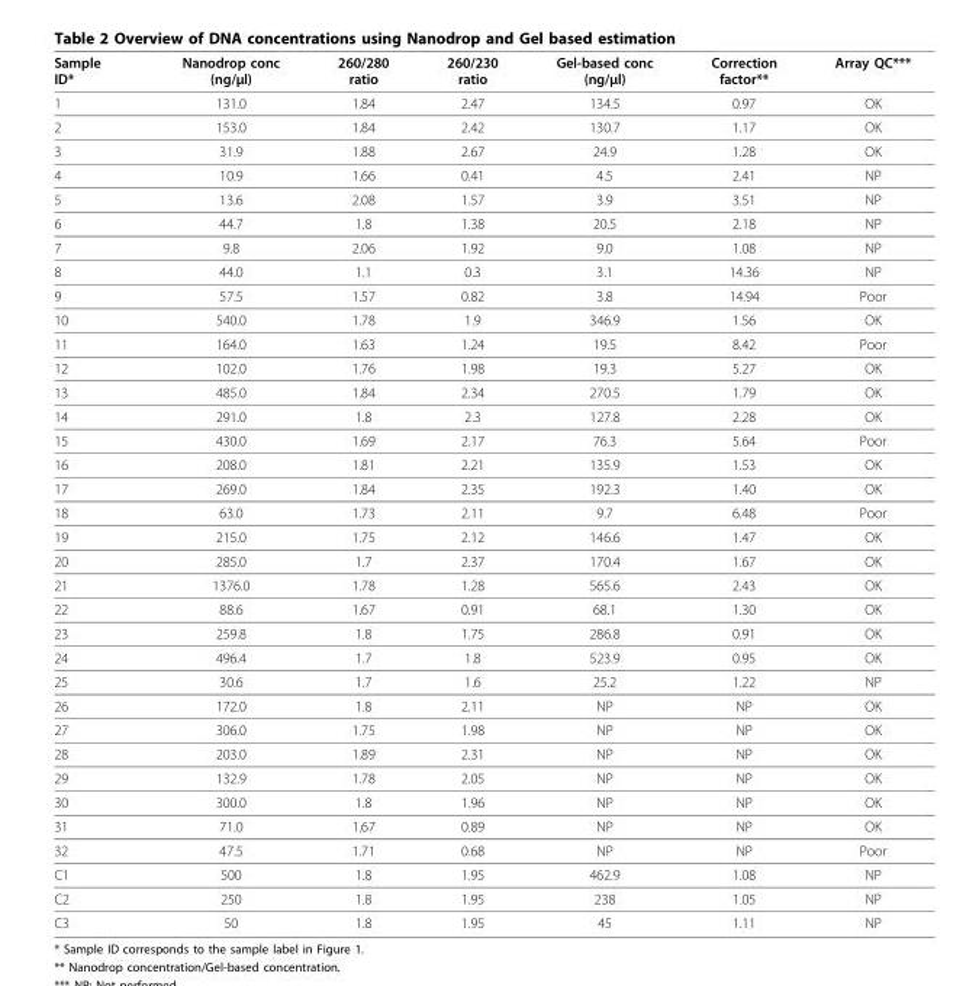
<table><thead><tr><td>Sample ID*</td><td>Nanodrop conc (ng/μl)</td><td>260/280 ratio</td><td>260/230 ratio</td><td>Gel-based conc (ng/μl)</td><td>Correction factor**</td><td>Array QC***</td></tr></thead><tbody><tr><td>1</td><td>131.0</td><td>1.84</td><td>2.47</td><td>134.5</td><td>0.97</td><td>OK</td></tr><tr><td>2</td><td>153.0</td><td>1.84</td><td>2.42</td><td>130.7</td><td>1.17</td><td>OK</td></tr><tr><td>3</td><td>31.9</td><td>1.88</td><td>2.67</td><td>24.9</td><td>1.28</td><td>OK</td></tr><tr><td>4</td><td>10.9</td><td>1.66</td><td>0.41</td><td>4.5</td><td>2.41</td><td>NP</td></tr><tr><td>5</td><td>13.6</td><td>2.08</td><td>1.57</td><td>3.9</td><td>3.51</td><td>NP</td></tr><tr><td>6</td><td>44.7</td><td>1.8</td><td>1.38</td><td>20.5</td><td>2.18</td><td>NP</td></tr><tr><td>7</td><td>9.8</td><td>2.06</td><td>1.92</td><td>9.0</td><td>1.08</td><td>NP</td></tr><tr><td>8</td><td>44.0</td><td>1.1</td><td>0.3</td><td>3.1</td><td>14.36</td><td>NP</td></tr><tr><td>9</td><td>57.5</td><td>1.57</td><td>0.82</td><td>3.8</td><td>14.94</td><td>Poor</td></tr><tr><td>10</td><td>540.0</td><td>1.78</td><td>1.9</td><td>346.9</td><td>1.56</td><td>OK</td></tr><tr><td>11</td><td>164.0</td><td>1.63</td><td>1.24</td><td>19.5</td><td>8.42</td><td>Poor</td></tr><tr><td>12</td><td>102.0</td><td>1.76</td><td>1.98</td><td>19.3</td><td>5.27</td><td>OK</td></tr><tr><td>13</td><td>485.0</td><td>1.84</td><td>2.34</td><td>270.5</td><td>1.79</td><td>OK</td></tr><tr><td>14</td><td>291.0</td><td>1.8</td><td>2.3</td><td>127.8</td><td>2.28</td><td>OK</td></tr><tr><td>15</td><td>430.0</td><td>1.69</td><td>2.17</td><td>76.3</td><td>5.64</td><td>Poor</td></tr><tr><td>16</td><td>208.0</td><td>1.81</td><td>2.21</td><td>135.9</td><td>1.53</td><td>OK</td></tr><tr><td>17</td><td>269.0</td><td>1.84</td><td>2.35</td><td>192.3</td><td>1.40</td><td>OK</td></tr><tr><td>18</td><td>63.0</td><td>1.73</td><td>2.11</td><td>9.7</td><td>6.48</td><td>Poor</td></tr><tr><td>19</td><td>215.0</td><td>1.75</td><td>2.12</td><td>146.6</td><td>1.47</td><td>OK</td></tr><tr><td>20</td><td>285.0</td><td>1.7</td><td>2.37</td><td>170.4</td><td>1.67</td><td>OK</td></tr><tr><td>21</td><td>1376.0</td><td>1.78</td><td>1.28</td><td>565.6</td><td>2.43</td><td>OK</td></tr><tr><td>22</td><td>88.6</td><td>1.67</td><td>0.91</td><td>68.1</td><td>1.30</td><td>OK</td></tr><tr><td>23</td><td>259.8</td><td>1.8</td><td>1.75</td><td>286.8</td><td>0.91</td><td>OK</td></tr><tr><td>24</td><td>496.4</td><td>1.7</td><td>1.8</td><td>523.9</td><td>0.95</td><td>OK</td></tr><tr><td>25</td><td>30.6</td><td>1.7</td><td>1.6</td><td>25.2</td><td>1.22</td><td>NP</td></tr><tr><td>26</td><td>172.0</td><td>1.8</td><td>2.11</td><td>NP</td><td>NP</td><td>OK</td></tr><tr><td>27</td><td>306.0</td><td>1.75</td><td>1.98</td><td>NP</td><td>NP</td><td>OK</td></tr><tr><td>28</td><td>203.0</td><td>1.89</td><td>2.31</td><td>NP</td><td>NP</td><td>OK</td></tr><tr><td>29</td><td>132.9</td><td>1.78</td><td>2.05</td><td>NP</td><td>NP</td><td>OK</td></tr><tr><td>30</td><td>300.0</td><td>1.8</td><td>1.96</td><td>NP</td><td>NP</td><td>OK</td></tr><tr><td>31</td><td>71.0</td><td>1.67</td><td>0.89</td><td>NP</td><td>NP</td><td>OK</td></tr><tr><td>32</td><td>47.5</td><td>1.71</td><td>0.68</td><td>NP</td><td>NP</td><td>Poor</td></tr><tr><td>C1</td><td>500</td><td>1.8</td><td>1.95</td><td>462.9</td><td>1.08</td><td>NP</td></tr><tr><td>C2</td><td>250</td><td>1.8</td><td>1.95</td><td>238</td><td>1.05</td><td>NP</td></tr><tr><td>C3</td><td>50</td><td>1.8</td><td>1.95</td><td>45</td><td>1.11</td><td>NP</td></tr></tbody></table>